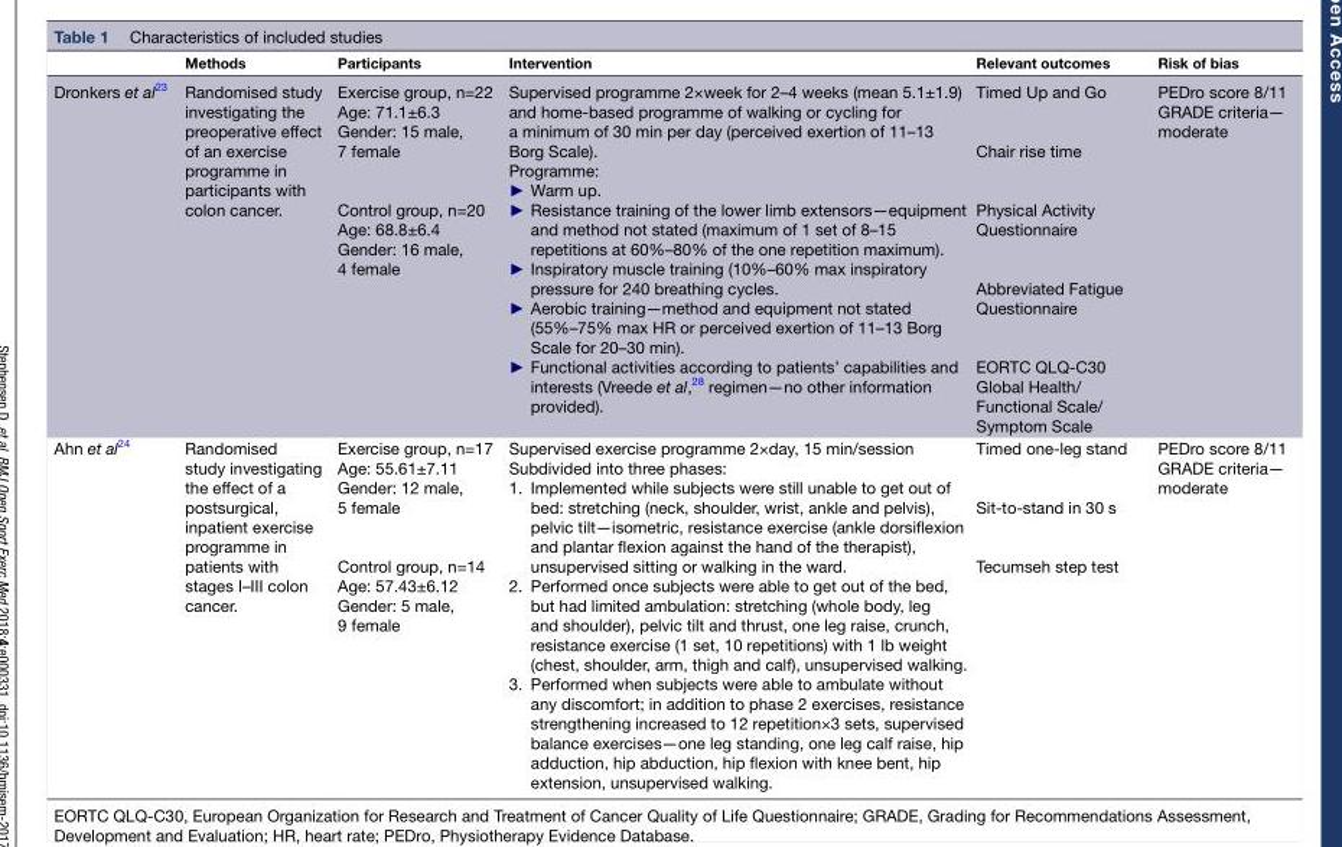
<table><thead><tr><td></td><td>Methods</td><td>Participants</td><td>Intervention</td><td>Relevant outcomes</td><td>Risk of bias</td></tr></thead><tbody><tr><td>Dronkers et al<sup>23</sup></td><td>Randomised study investigating the preoperative effect of an exercise programme in participants with colon cancer.</td><td>Exercise group, n=22 Age: 71.1±6.3 Gender: 15 male, 7 female Control group, n=20 Age: 68.8±6.4 Gender: 16 male, 4 female</td><td>Supervised programme 2×week for 2–4 weeks (mean 5.1±1.9) and home-based programme of walking or cycling for a minimum of 30 min per day (perceived exertion of 11–13 Borg Scale). Programme: ► Warm up. ► Resistance training of the lower limb extensors—equipment and method not stated (maximum of 1 set of 8–15 repetitions at 60%–80% of the one repetition maximum). ► Inspiratory muscle training (10%–60% max inspiratory pressure for 240 breathing cycles. ► Aerobic training—method and equipment not stated (55%–75% max HR or perceived exertion of 11–13 Borg Scale for 20–30 min). ► Functional activities according to patients’ capabilities and interests (Vreede et al,28 regimen—no other information provided).</td><td>Timed Up and Go Chair rise time Physical Activity Questionnaire Abbreviated Fatigue Questionnaire EORTC QLQ-C30 Global Health/ Functional Scale/ Symptom Scale</td><td>PEDro score 8/11 GRADE criteria— moderate</td></tr><tr><td>Ahn et al<sup>24</sup></td><td>Randomised study investigating the effect of a postsurgical, inpatient exercise programme in patients with stages I–III colon cancer.</td><td>Exercise group, n=17 Age: 55.61±7.11 Gender: 12 male, 5 female Control group, n=14 Age: 57.43±6.12 Gender: 5 male, 9 female</td><td>Supervised exercise programme 2×day, 15 min/session Subdivided into three phases: 1. Implemented while subjects were still unable to get out of bed: stretching (neck, shoulder, wrist, ankle and pelvis), pelvic tilt—isometric, resistance exercise (ankle dorsiflexion and plantar flexion against the hand of the therapist), unsupervised sitting or walking in the ward. 2. Performed once subjects were able to get out of the bed, but had limited ambulation: stretching (whole body, leg and shoulder), pelvic tilt and thrust, one leg raise, crunch, resistance exercise (1 set, 10 repetitions) with 1 lb weight (chest, shoulder, arm, thigh and calf), unsupervised walking. 3. Performed when subjects were able to ambulate without any discomfort; in addition to phase 2 exercises, resistance strengthening increased to 12 repetition×3 sets, supervised balance exercises—one leg standing, one leg calf raise, hip adduction, hip abduction, hip flexion with knee bent, hip extension, unsupervised walking.</td><td>Timed one-leg stand Sit-to-stand in 30 s Tecumseh step test</td><td>PEDro score 8/11 GRADE criteria— moderate</td></tr></tbody></table>